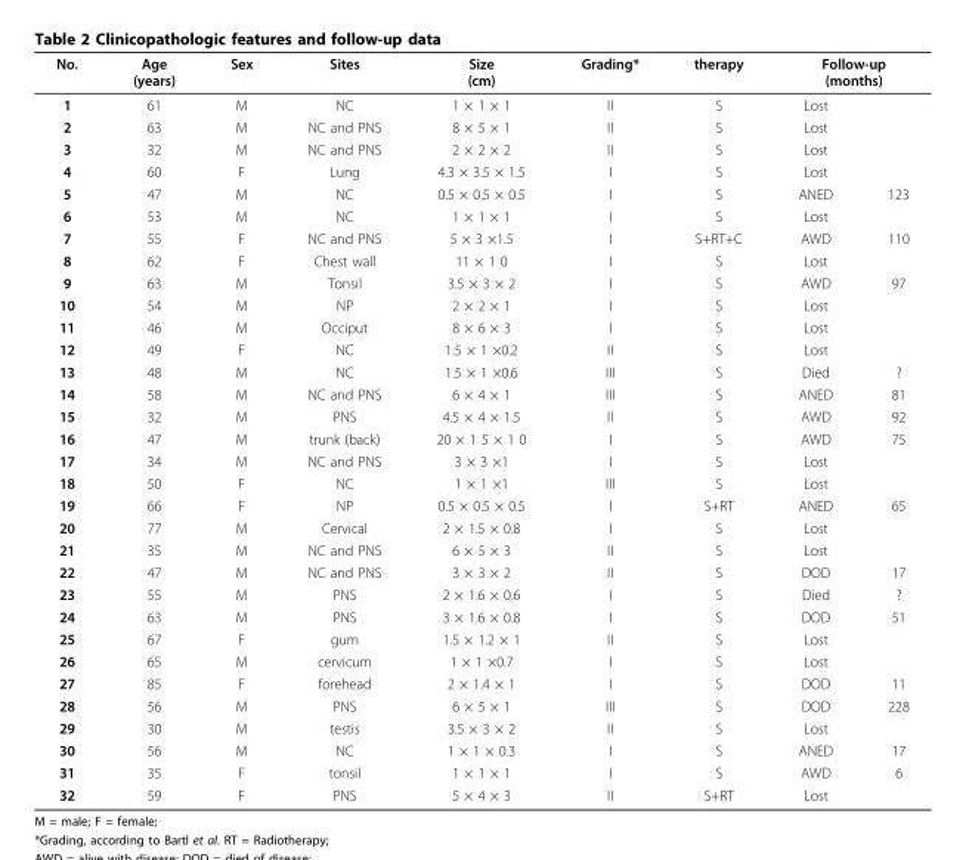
<table><thead><tr><td rowspan="2">No. 1</td><td rowspan="2">Age (years) 61</td><td rowspan="2">Sex M</td><td rowspan="2">Sites NC</td><td rowspan="2">Size (cm) 1 × 1 × 1</td><td rowspan="2">Grading* II</td><td rowspan="2">therapy S</td><td colspan="2">Follow-up (months)</td></tr><tr><td>Lost</td><td></td></tr></thead><tbody><tr><td>2</td><td>63</td><td>M</td><td>NC and PNS</td><td>8 × 5 × 1</td><td>II</td><td>S</td><td>Lost</td><td></td></tr><tr><td>3</td><td>32</td><td>M</td><td>NC and PNS</td><td>2 × 2 × 2</td><td>II</td><td>S</td><td>Lost</td><td></td></tr><tr><td>4</td><td>60</td><td>F</td><td>Lung</td><td>4.3 × 3.5 × 1.5</td><td>I</td><td>S</td><td>Lost</td><td></td></tr><tr><td>5</td><td>47</td><td>M</td><td>NC</td><td>0.5 × 0.5 × 0.5</td><td>I</td><td>S</td><td>ANED</td><td>123</td></tr><tr><td>6</td><td>53</td><td>M</td><td>NC</td><td>1 × 1 × 1</td><td>I</td><td>S</td><td>Lost</td><td></td></tr><tr><td>7</td><td>55</td><td>F</td><td>NC and PNS</td><td>5 × 3 ×1.5</td><td>I</td><td>S+RT+C</td><td>AWD</td><td>110</td></tr><tr><td>8</td><td>62</td><td>F</td><td>Chest wall</td><td>11 × 1 0</td><td>I</td><td>S</td><td>Lost</td><td></td></tr><tr><td>9</td><td>63</td><td>M</td><td>Tonsil</td><td>3.5 × 3 × 2</td><td>I</td><td>S</td><td>AWD</td><td>97</td></tr><tr><td>10</td><td>54</td><td>M</td><td>NP</td><td>2 × 2 × 1</td><td>I</td><td>S</td><td>Lost</td><td></td></tr><tr><td>11</td><td>46</td><td>M</td><td>Occiput</td><td>8 × 6 × 3</td><td>I</td><td>S</td><td>Lost</td><td></td></tr><tr><td>12</td><td>49</td><td>F</td><td>NC</td><td>1.5 × 1 ×0.2</td><td>II</td><td>S</td><td>Lost</td><td></td></tr><tr><td>13</td><td>48</td><td>M</td><td>NC</td><td>1.5 × 1 ×0.6</td><td>III</td><td>S</td><td>Died</td><td>?</td></tr><tr><td>14</td><td>58</td><td>M</td><td>NC and PNS</td><td>6 × 4 × 1</td><td>III</td><td>S</td><td>ANED</td><td>81</td></tr><tr><td>15</td><td>32</td><td>M</td><td>PNS</td><td>4.5 × 4 × 1.5</td><td>II</td><td>S</td><td>AWD</td><td>92</td></tr><tr><td>16</td><td>47</td><td>M</td><td>trunk (back)</td><td>20 × 1 5 × 1 0</td><td>I</td><td>S</td><td>AWD</td><td>75</td></tr><tr><td>17</td><td>34</td><td>M</td><td>NC and PNS</td><td>3 × 3 ×1</td><td>I</td><td>S</td><td>Lost</td><td></td></tr><tr><td>18</td><td>50</td><td>F</td><td>NC</td><td>1 × 1 ×1</td><td>III</td><td>S</td><td>Lost</td><td></td></tr><tr><td>19</td><td>66</td><td>F</td><td>NP</td><td>0.5 × 0.5 × 0.5</td><td>I</td><td>S+RT</td><td>ANED</td><td>65</td></tr><tr><td>20</td><td>77</td><td>M</td><td>Cervical</td><td>2 × 1.5 × 0.8</td><td>I</td><td>S</td><td>Lost</td><td></td></tr><tr><td>21</td><td>35</td><td>M</td><td>NC and PNS</td><td>6 × 5 × 3</td><td>II</td><td>S</td><td>Lost</td><td></td></tr><tr><td>22</td><td>47</td><td>M</td><td>NC and PNS</td><td>3 × 3 × 2</td><td>II</td><td>S</td><td>DOD</td><td>17</td></tr><tr><td>23</td><td>55</td><td>M</td><td>PNS</td><td>2 × 1.6 × 0.6</td><td>I</td><td>S</td><td>Died</td><td>?</td></tr><tr><td>24</td><td>63</td><td>M</td><td>PNS</td><td>3 × 1.6 × 0.8</td><td>I</td><td>S</td><td>DOD</td><td>51</td></tr><tr><td>25</td><td>67</td><td>F</td><td>gum</td><td>1.5 × 1.2 × 1</td><td>II</td><td>S</td><td>Lost</td><td></td></tr><tr><td>26</td><td>65</td><td>M</td><td>cervicum</td><td>1 × 1 ×0.7</td><td>I</td><td>S</td><td>Lost</td><td></td></tr><tr><td>27</td><td>85</td><td>F</td><td>forehead</td><td>2 × 1.4 × 1</td><td>I</td><td>S</td><td>DOD</td><td>11</td></tr><tr><td>28</td><td>56</td><td>M</td><td>PNS</td><td>6 × 5 × 1</td><td>III</td><td>S</td><td>DOD</td><td>228</td></tr><tr><td>29</td><td>30</td><td>M</td><td>testis</td><td>3.5 × 3 × 2</td><td>II</td><td>S</td><td>Lost</td><td></td></tr><tr><td>30</td><td>56</td><td>M</td><td>NC</td><td>1 × 1 × 0.3</td><td>I</td><td>S</td><td>ANED</td><td>17</td></tr><tr><td>31</td><td>35</td><td>F</td><td>tonsil</td><td>1 × 1 × 1</td><td>I</td><td>S</td><td>AWD</td><td>6</td></tr><tr><td>32</td><td>59</td><td>F</td><td>PNS</td><td>5 × 4 × 3</td><td>II</td><td>S+RT</td><td>Lost</td><td></td></tr></tbody></table>